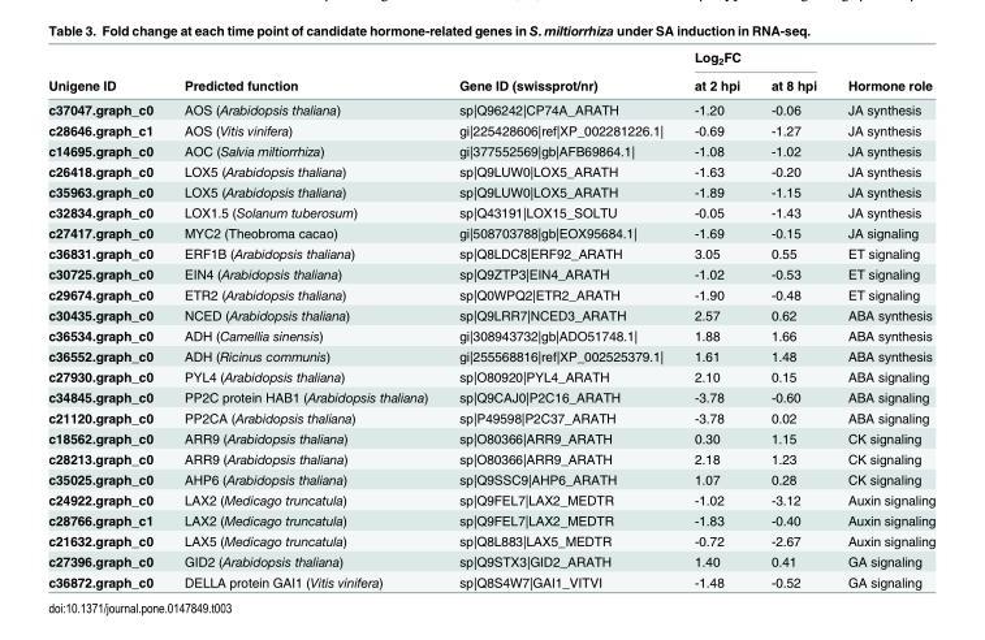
<table><thead><tr><td rowspan="2">Unigene ID</td><td rowspan="2">Predicted function</td><td rowspan="2">Gene ID (swissprot/nr)</td><td colspan="2">Log<sub>2</sub>FC</td><td rowspan="2">Hormone role</td></tr><tr><td>at 2 hpi</td><td>at 8 hpi</td></tr></thead><tbody><tr><td>c37047.graph_c0</td><td>AOS (Arabidopsis thaliana)</td><td>sp|Q96242|CP74A_ARATH</td><td>-1.20</td><td>-0.06</td><td>JA synthesis</td></tr><tr><td>c28646.graph_c1</td><td>AOS (Vitis vinifera)</td><td>gi|225428606|ref|XP_002281226.1|</td><td>-0.69</td><td>-1.27</td><td>JA synthesis</td></tr><tr><td>c14695.graph_c0</td><td>AOC (Salvia miltiorrhiza)</td><td>gi|377552569|gb|AFB69864.1|</td><td>-1.08</td><td>-1.02</td><td>JA synthesis</td></tr><tr><td>c26418.graph_c0</td><td>LOX5 (Arabidopsis thaliana)</td><td>sp|Q9LUW0|LOX5_ARATH</td><td>-1.63</td><td>-0.20</td><td>JA synthesis</td></tr><tr><td>c35963.graph_c0</td><td>LOX5 (Arabidopsis thaliana)</td><td>sp|Q9LUW0|LOX5_ARATH</td><td>-1.89</td><td>-1.15</td><td>JA synthesis</td></tr><tr><td>c32834.graph_c0</td><td>LOX1.5 (Solanum tuberosum)</td><td>sp|Q43191|LOX15_SOLTU</td><td>-0.05</td><td>-1.43</td><td>JA synthesis</td></tr><tr><td>c27417.graph_c0</td><td>MYC2 (Theobroma cacao)</td><td>gi|508703788|gb|EOX95684.1|</td><td>-1.69</td><td>-0.15</td><td>JA signaling</td></tr><tr><td>c36831.graph_c0</td><td>ERF1B (Arabidopsis thaliana)</td><td>sp|Q8LDC8|ERF92_ARATH</td><td>3.05</td><td>0.55</td><td>ET signaling</td></tr><tr><td>c30725.graph_c0</td><td>EIN4 (Arabidopsis thaliana)</td><td>sp|Q9ZTP3|EIN4_ARATH</td><td>-1.02</td><td>-0.53</td><td>ET signaling</td></tr><tr><td>c29674.graph_c0</td><td>ETR2 (Arabidopsis thaliana)</td><td>sp|Q0WPQ2|ETR2_ARATH</td><td>-1.90</td><td>-0.48</td><td>ET signaling</td></tr><tr><td>c30435.graph_c0</td><td>NCED (Arabidopsis thaliana)</td><td>sp|Q9LRR7|NCED3_ARATH</td><td>2.57</td><td>0.62</td><td>ABA synthesis</td></tr><tr><td>c36534.graph_c0</td><td>ADH (Camellia sinensis)</td><td>gi|308943732|gb|ADO51748.1|</td><td>1.88</td><td>1.66</td><td>ABA synthesis</td></tr><tr><td>c36552.graph_c0</td><td>ADH (Ricinus communis)</td><td>gi|255568816|ref|XP_002525379.1|</td><td>1.61</td><td>1.48</td><td>ABA synthesis</td></tr><tr><td>c27930.graph_c0</td><td>PYL4 (Arabidopsis thaliana)</td><td>sp|O80920|PYL4_ARATH</td><td>2.10</td><td>0.15</td><td>ABA signaling</td></tr><tr><td>c34845.graph_c0</td><td>PP2C protein HAB1 (Arabidopsis thaliana)</td><td>sp|Q9CAJ0|P2C16_ARATH</td><td>-3.78</td><td>-0.60</td><td>ABA signaling</td></tr><tr><td>c21120.graph_c0</td><td>PP2CA (Arabidopsis thaliana)</td><td>sp|P49598|P2C37_ARATH</td><td>-3.78</td><td>0.02</td><td>ABA signaling</td></tr><tr><td>c18562.graph_c0</td><td>ARR9 (Arabidopsis thaliana)</td><td>sp|O80366|ARR9_ARATH</td><td>0.30</td><td>1.15</td><td>CK signaling</td></tr><tr><td>c28213.graph_c0</td><td>ARR9 (Arabidopsis thaliana)</td><td>sp|O80366|ARR9_ARATH</td><td>2.18</td><td>1.23</td><td>CK signaling</td></tr><tr><td>c35025.graph_c0</td><td>AHP6 (Arabidopsis thaliana)</td><td>sp|Q9SSC9|AHP6_ARATH</td><td>1.07</td><td>0.28</td><td>CK signaling</td></tr><tr><td>c24922.graph_c0</td><td>LAX2 (Medicago truncatula)</td><td>sp|Q9FEL7|LAX2_MEDTR</td><td>-1.02</td><td>-3.12</td><td>Auxin signaling</td></tr><tr><td>c28766.graph_c1</td><td>LAX2 (Medicago truncatula)</td><td>sp|Q9FEL7|LAX2_MEDTR</td><td>-1.83</td><td>-0.40</td><td>Auxin signaling</td></tr><tr><td>c21632.graph_c0</td><td>LAX5 (Medicago truncatula)</td><td>sp|Q8L883|LAX5_MEDTR</td><td>-0.72</td><td>-2.67</td><td>Auxin signaling</td></tr><tr><td>c27396.graph_c0</td><td>GID2 (Arabidopsis thaliana)</td><td>sp|Q9STX3|GID2_ARATH</td><td>1.40</td><td>0.41</td><td>GA signaling</td></tr><tr><td>c36872.graph_c0</td><td>DELLA protein GAI1 (Vitis vinifera)</td><td>sp|Q8S4W7|GAI1_VITVI</td><td>-1.48</td><td>-0.52</td><td>GA signaling</td></tr></tbody></table>